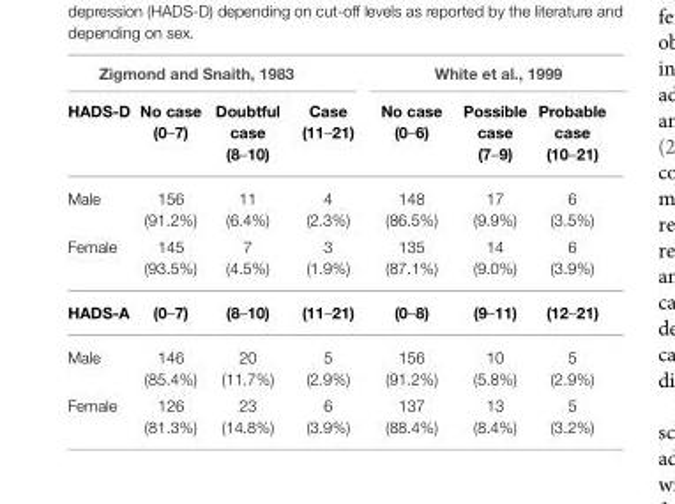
<table><thead><tr><td colspan="4">Zigmond and Snaith, 1983</td><td colspan="3">White et al., 1999</td></tr><tr><td>HADS-D</td><td>No case (0–7)</td><td>Doubtful case (8–10)</td><td>Case (11–21)</td><td>No case (0–6)</td><td>Possible case (7–9)</td><td>Probable case (10–21)</td></tr></thead><tbody><tr><td>Male</td><td>156 (91.2%)</td><td>11 (6.4%)</td><td>4 (2.3%)</td><td>148 (86.5%)</td><td>17 (9.9%)</td><td>6 (3.5%)</td></tr><tr><td>Female</td><td>145 (93.5%)</td><td>7 (4.5%)</td><td>3 (1.9%)</td><td>135 (87.1%)</td><td>14 (9.0%)</td><td>6 (3.9%)</td></tr><tr><td>HADS-A</td><td>(0–7)</td><td>(8–10)</td><td>(11–21)</td><td>(0–8)</td><td>(9–11)</td><td>(12–21)</td></tr><tr><td>Male</td><td>146 (85.4%)</td><td>20 (11.7%)</td><td>5 (2.9%)</td><td>156 (91.2%)</td><td>10 (5.8%)</td><td>5 (2.9%)</td></tr><tr><td>Female</td><td>126 (81.3%)</td><td>23 (14.8%)</td><td>6 (3.9%)</td><td>137 (88.4%)</td><td>13 (8.4%)</td><td>5 (3.2%)</td></tr></tbody></table>